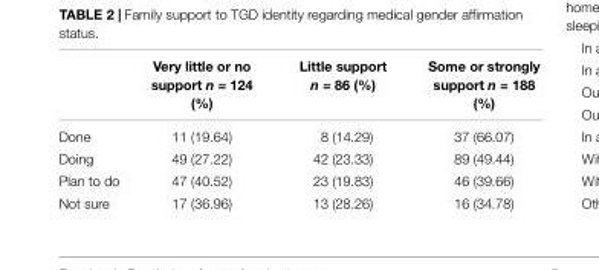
<table><thead><tr><td></td><td>Very little or no support n = 124 (%)</td><td>Little support n = 86 (%)</td><td>Some or strongly support n = 188 (%)</td></tr></thead><tbody><tr><td>Done</td><td>11 (19.64)</td><td>8 (14.29)</td><td>37 (66.07)</td></tr><tr><td>Doing</td><td>49 (27.22)</td><td>42 (23.33)</td><td>89 (49.44)</td></tr><tr><td>Plan to do</td><td>47 (40.52)</td><td>23 (19.83)</td><td>46 (39.66)</td></tr><tr><td>Not sure</td><td>17 (36.96)</td><td>13 (28.26)</td><td>16 (34.78)</td></tr></tbody></table>